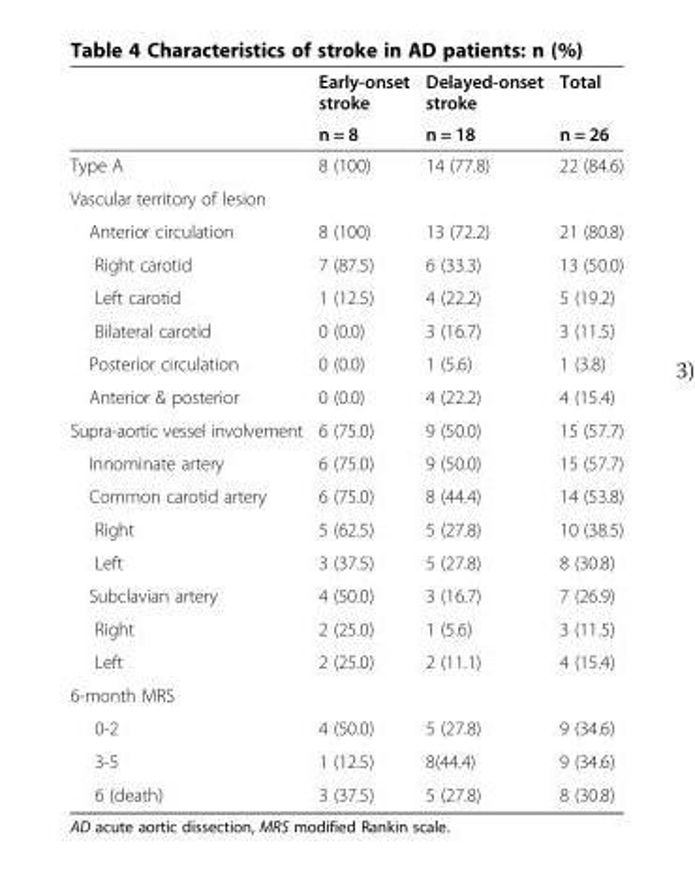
<table><thead><tr><td rowspan="2"></td><td rowspan="2">Early-onset stroke n = 8</td><td rowspan="2">Delayed-onset stroke n = 18</td><td rowspan="2">Total n = 26</td></tr><tr></tr></thead><tbody><tr><td>Type A</td><td>8 (100)</td><td>14 (77.8)</td><td>22 (84.6)</td></tr><tr><td colspan="4">Vascular territory of lesion</td></tr><tr><td>Anterior circulation</td><td>8 (100)</td><td>13 (72.2)</td><td>21 (80.8)</td></tr><tr><td>Right carotid</td><td>7 (87.5)</td><td>6 (33.3)</td><td>13 (50.0)</td></tr><tr><td>Left carotid</td><td>1 (12.5)</td><td>4 (22.2)</td><td>5 (19.2)</td></tr><tr><td>Bilateral carotid</td><td>0 (0.0)</td><td>3 (16.7)</td><td>3 (11.5)</td></tr><tr><td>Posterior circulation</td><td>0 (0.0)</td><td>1 (5.6)</td><td>1 (3.8)</td></tr><tr><td>Anterior &amp; posterior</td><td>0 (0.0)</td><td>4 (22.2)</td><td>4 (15.4)</td></tr><tr><td>Supra-aortic vessel involvement</td><td>6 (75.0)</td><td>9 (50.0)</td><td>15 (57.7)</td></tr><tr><td>Innominate artery</td><td>6 (75.0)</td><td>9 (50.0)</td><td>15 (57.7)</td></tr><tr><td>Common carotid artery</td><td>6 (75.0)</td><td>8 (44.4)</td><td>14 (53.8)</td></tr><tr><td>Right</td><td>5 (62.5)</td><td>5 (27.8)</td><td>10 (38.5)</td></tr><tr><td>Left</td><td>3 (37.5)</td><td>5 (27.8)</td><td>8 (30.8)</td></tr><tr><td>Subclavian artery</td><td>4 (50.0)</td><td>3 (16.7)</td><td>7 (26.9)</td></tr><tr><td>Right</td><td>2 (25.0)</td><td>1 (5.6)</td><td>3 (11.5)</td></tr><tr><td>Left</td><td>2 (25.0)</td><td>2 (11.1)</td><td>4 (15.4)</td></tr><tr><td colspan="4">6-month MRS</td></tr><tr><td>0-2</td><td>4 (50.0)</td><td>5 (27.8)</td><td>9 (34.6)</td></tr><tr><td>3-5</td><td>1 (12.5)</td><td>8(44.4)</td><td>9 (34.6)</td></tr><tr><td>6 (death)</td><td>3 (37.5)</td><td>5 (27.8)</td><td>8 (30.8)</td></tr></tbody></table>